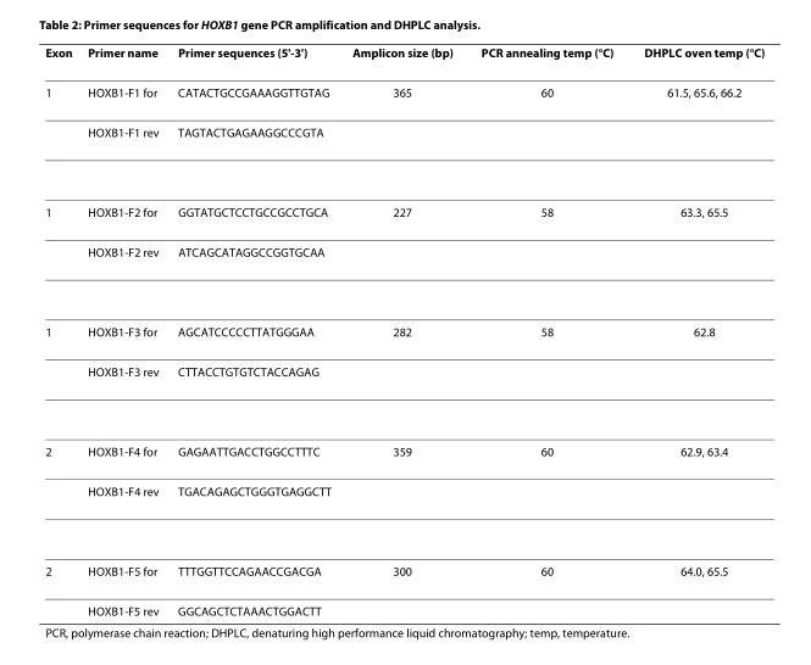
<table><thead><tr><td>Exon</td><td>Primer name</td><td>Primer sequences (5&#x27;-3&#x27;)</td><td>Amplicon size (bp)</td><td>PCR annealing temp (°C)</td><td>DHPLC oven temp (°C)</td></tr></thead><tbody><tr><td rowspan="2">1</td><td>HOXB1-F1 for</td><td>CATACTGCCGAAAGGTTGTAG</td><td>365</td><td>60</td><td>61.5, 65.6, 66.2</td></tr><tr><td>HOXB1-F1 rev</td><td>TAGTACTGAGAAGGCCCGTA</td><td></td><td></td><td></td></tr><tr><td rowspan="2">1</td><td>HOXB1-F2 for</td><td>GGTATGCTCCTGCCGCCTGCA</td><td>227</td><td>58</td><td>63.3, 65.5</td></tr><tr><td>HOXB1-F2 rev</td><td>ATCAGCATAGGCCGGTGCAA</td><td></td><td></td><td></td></tr><tr><td rowspan="2">1</td><td>HOXB1-F3 for</td><td>AGCATCCCCCTTATGGGAA</td><td>282</td><td>58</td><td>62.8</td></tr><tr><td>HOXB1-F3 rev</td><td>CTTACCTGTGTCTACCAGAG</td><td></td><td></td><td></td></tr><tr><td rowspan="2">2</td><td>HOXB1-F4 for</td><td>GAGAATTGACCTGGCCTTTC</td><td>359</td><td>60</td><td>62.9, 63.4</td></tr><tr><td>HOXB1-F4 rev</td><td>TGACAGAGCTGGGTGAGGCTT</td><td></td><td></td><td></td></tr><tr><td rowspan="2">2</td><td>HOXB1-F5 for</td><td>TTTGGTTCCAGAACCGACGA</td><td>300</td><td>60</td><td>64.0, 65.5</td></tr><tr><td>HOXB1-F5 rev</td><td>GGCAGCTCTAAACTGGACTT</td><td></td><td></td><td></td></tr></tbody></table>